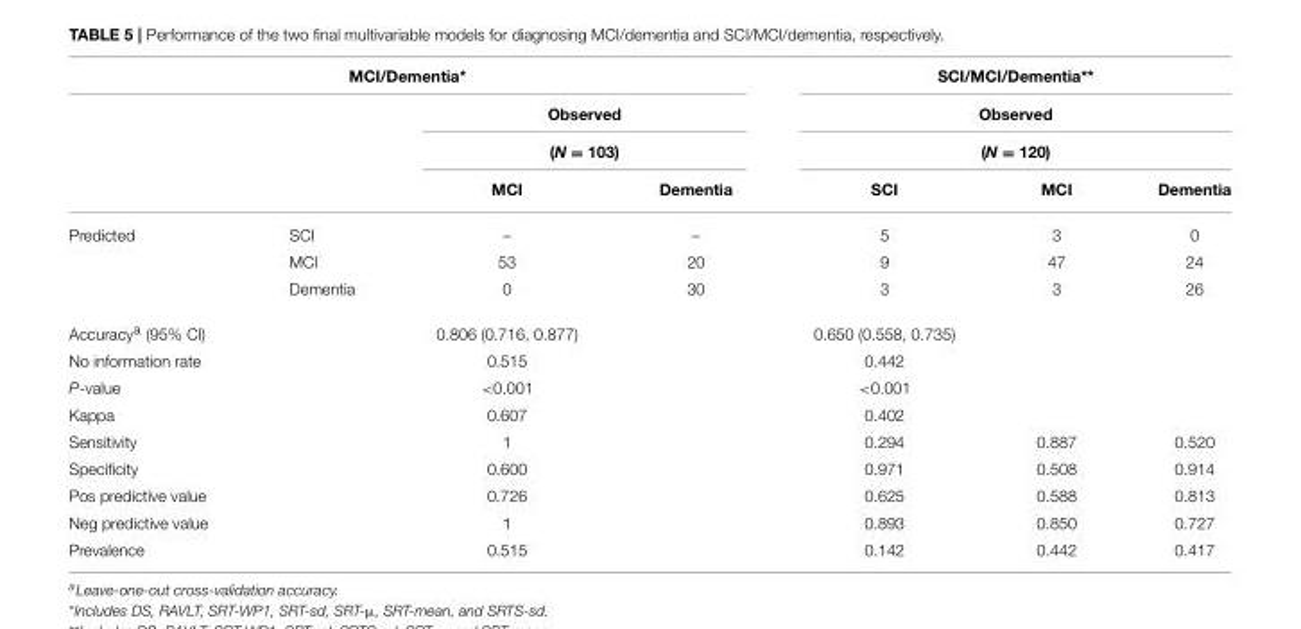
<table><thead><tr><td colspan="4">MCI/Dementia*</td><td rowspan="3" colspan="3">SCI/MCI/Dementia** Observed (N = 120)</td></tr><tr><td rowspan="3"></td><td rowspan="3"></td><td rowspan="2" colspan="2">Observed (N = 103)</td></tr><tr></tr><tr><td>MCI</td><td>Dementia</td><td>SCI</td><td>MCI</td><td>Dementia</td></tr></thead><tbody><tr><td rowspan="3">Predicted</td><td>SCI</td><td>–</td><td>–</td><td>5</td><td>3</td><td>0</td></tr><tr><td>MCI</td><td>53</td><td>20</td><td>9</td><td>47</td><td>24</td></tr><tr><td>Dementia</td><td>0</td><td>30</td><td>3</td><td>3</td><td>26</td></tr><tr><td>Accuracy<sup>a</sup> (95% CI)</td><td></td><td>0.806 (0.716, 0.877)</td><td></td><td>0.650 (0.558, 0.735)</td><td></td><td></td></tr><tr><td>No information rate</td><td></td><td>0.515</td><td></td><td>0.442</td><td></td><td></td></tr><tr><td>P-value</td><td></td><td>&lt;0.001</td><td></td><td>&lt;0.001</td><td></td><td></td></tr><tr><td>Kappa</td><td></td><td>0.607</td><td></td><td>0.402</td><td></td><td></td></tr><tr><td>Sensitivity</td><td></td><td>1</td><td></td><td>0.294</td><td>0.887</td><td>0.520</td></tr><tr><td>Specificity</td><td></td><td>0.600</td><td></td><td>0.971</td><td>0.508</td><td>0.914</td></tr><tr><td>Pos predictive value</td><td></td><td>0.726</td><td></td><td>0.625</td><td>0.588</td><td>0.813</td></tr><tr><td>Neg predictive value</td><td></td><td>1</td><td></td><td>0.893</td><td>0.850</td><td>0.727</td></tr><tr><td>Prevalence</td><td></td><td>0.515</td><td></td><td>0.142</td><td>0.442</td><td>0.417</td></tr></tbody></table>